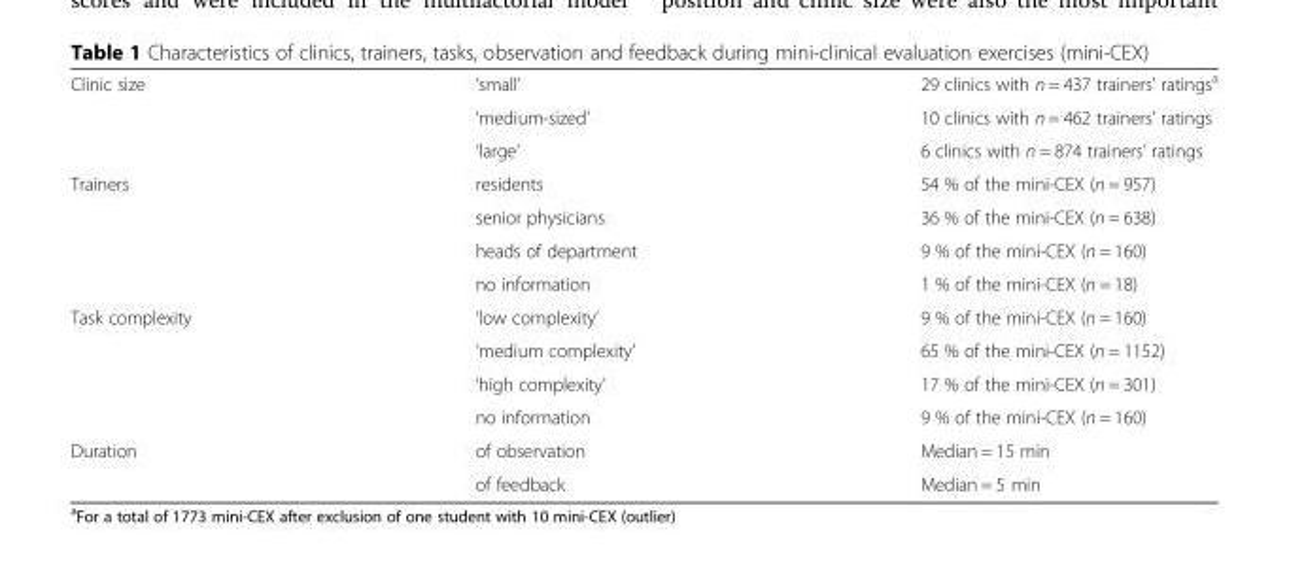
<table><tbody><tr><td rowspan="3">Clinic size</td><td>‘small’</td><td>29 clinics with n = 437 trainers’ ratings<sup>a</sup></td></tr><tr><td>‘medium-sized’</td><td>10 clinics with n = 462 trainers’ ratings</td></tr><tr><td>‘large’</td><td>6 clinics with n = 874 trainers’ ratings</td></tr><tr><td rowspan="4">Trainers</td><td>residents</td><td>54 % of the mini-CEX (n = 957)</td></tr><tr><td>senior physicians</td><td>36 % of the mini-CEX (n = 638)</td></tr><tr><td>heads of department</td><td>9 % of the mini-CEX (n = 160)</td></tr><tr><td>no information</td><td>1 % of the mini-CEX (n = 18)</td></tr><tr><td rowspan="4">Task complexity</td><td>‘low complexity’</td><td>9 % of the mini-CEX (n = 160)</td></tr><tr><td>‘medium complexity’</td><td>65 % of the mini-CEX (n = 1152)</td></tr><tr><td>‘high complexity’</td><td>17 % of the mini-CEX (n = 301)</td></tr><tr><td>no information</td><td>9 % of the mini-CEX (n = 160)</td></tr><tr><td rowspan="2">Duration</td><td>of observation</td><td>Median = 15 min</td></tr><tr><td>of feedback</td><td>Median = 5 min</td></tr></tbody></table>